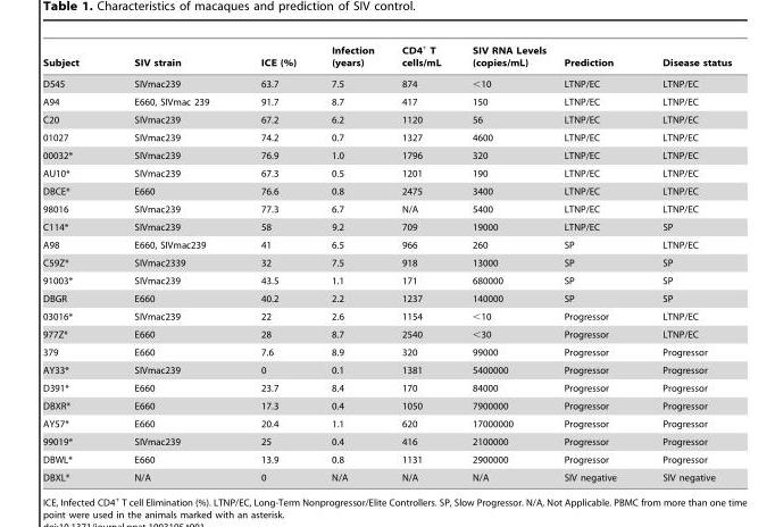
<table><thead><tr><td>Subject</td><td>SIV strain</td><td>ICE (%)</td><td>Infection (years)</td><td>CD4<sup>+</sup> T cells/mL</td><td>SIV RNA Levels (copies/mL)</td><td>Prediction</td><td>Disease status</td></tr></thead><tbody><tr><td>D545</td><td>SIVmac239</td><td>63.7</td><td>7.5</td><td>874</td><td>&lt;10</td><td>LTNP/EC</td><td>LTNP/EC</td></tr><tr><td>A94</td><td>E660, SIVmac 239</td><td>91.7</td><td>8.7</td><td>417</td><td>150</td><td>LTNP/EC</td><td>LTNP/EC</td></tr><tr><td>C20</td><td>SIVmac239</td><td>67.2</td><td>6.2</td><td>1120</td><td>56</td><td>LTNP/EC</td><td>LTNP/EC</td></tr><tr><td>01027</td><td>SIVmac239</td><td>74.2</td><td>0.7</td><td>1327</td><td>4600</td><td>LTNP/EC</td><td>LTNP/EC</td></tr><tr><td>00032*</td><td>SIVmac239</td><td>76.9</td><td>1.0</td><td>1796</td><td>320</td><td>LTNP/EC</td><td>LTNP/EC</td></tr><tr><td>AU10*</td><td>SIVmac239</td><td>67.3</td><td>0.5</td><td>1201</td><td>190</td><td>LTNP/EC</td><td>LTNP/EC</td></tr><tr><td>DBCE*</td><td>E660</td><td>76.6</td><td>0.8</td><td>2475</td><td>3400</td><td>LTNP/EC</td><td>LTNP/EC</td></tr><tr><td>98016</td><td>SIVmac239</td><td>77.3</td><td>6.7</td><td>N/A</td><td>5400</td><td>LTNP/EC</td><td>LTNP/EC</td></tr><tr><td>C114*</td><td>SIVmac239</td><td>58</td><td>9.2</td><td>709</td><td>19000</td><td>LTNP/EC</td><td>SP</td></tr><tr><td>A98</td><td>E660, SIVmac239</td><td>41</td><td>6.5</td><td>966</td><td>260</td><td>SP</td><td>LTNP/EC</td></tr><tr><td>C59Z*</td><td>SIVmac2339</td><td>32</td><td>7.5</td><td>918</td><td>13000</td><td>SP</td><td>SP</td></tr><tr><td>91003*</td><td>SIVmac239</td><td>43.5</td><td>1.1</td><td>171</td><td>680000</td><td>SP</td><td>SP</td></tr><tr><td>DBGR</td><td>E660</td><td>40.2</td><td>2.2</td><td>1237</td><td>140000</td><td>SP</td><td>SP</td></tr><tr><td>03016*</td><td>SIVmac239</td><td>22</td><td>2.6</td><td>1154</td><td>&lt;10</td><td>Progressor</td><td>LTNP/EC</td></tr><tr><td>977Z*</td><td>E660</td><td>28</td><td>8.7</td><td>2540</td><td>&lt;30</td><td>Progressor</td><td>LTNP/EC</td></tr><tr><td>379</td><td>E660</td><td>7.6</td><td>8.9</td><td>320</td><td>99000</td><td>Progressor</td><td>Progressor</td></tr><tr><td>AY33*</td><td>SIVmac239</td><td>0</td><td>0.1</td><td>1381</td><td>5400000</td><td>Progressor</td><td>Progressor</td></tr><tr><td>D391*</td><td>E660</td><td>23.7</td><td>8.4</td><td>170</td><td>84000</td><td>Progressor</td><td>Progressor</td></tr><tr><td>DBXR*</td><td>E660</td><td>17.3</td><td>0.4</td><td>1050</td><td>7900000</td><td>Progressor</td><td>Progressor</td></tr><tr><td>AY57*</td><td>E660</td><td>20.4</td><td>1.1</td><td>620</td><td>17000000</td><td>Progressor</td><td>Progressor</td></tr><tr><td>99019*</td><td>SIVmac239</td><td>25</td><td>0.4</td><td>416</td><td>2100000</td><td>Progressor</td><td>Progressor</td></tr><tr><td>DBWL*</td><td>E660</td><td>13.9</td><td>0.8</td><td>1131</td><td>2900000</td><td>Progressor</td><td>Progressor</td></tr><tr><td>DBXL*</td><td>N/A</td><td>0</td><td>N/A</td><td>N/A</td><td>N/A</td><td>SIV negative</td><td>SIV negative</td></tr></tbody></table>